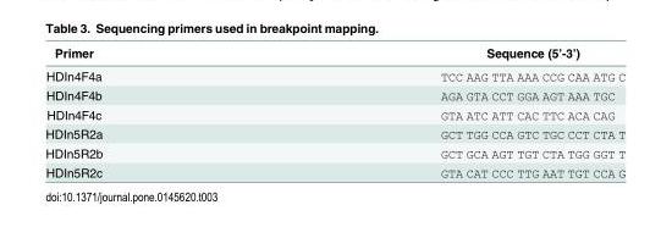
<table><thead><tr><td>Primer</td><td>Sequence (5’-3’)</td></tr></thead><tbody><tr><td>HDIn4F4a</td><td>TCC AAG TTA AAA CCG CAA ATG C</td></tr><tr><td>HDIn4F4b</td><td>AGA GTA CCT GGA AGT AAA TGC</td></tr><tr><td>HDIn4F4c</td><td>GTA ATC ATT CAC TTC ACA CAG</td></tr><tr><td>HDIn5R2a</td><td>GCT TGG CCA GTC TGC CCT CTA T</td></tr><tr><td>HDIn5R2b</td><td>GCT GCA AGT TGT CTA TGG GGT T</td></tr><tr><td>HDIn5R2c</td><td>GTA CAT CCC TTG AAT TGT CCA G</td></tr></tbody></table>